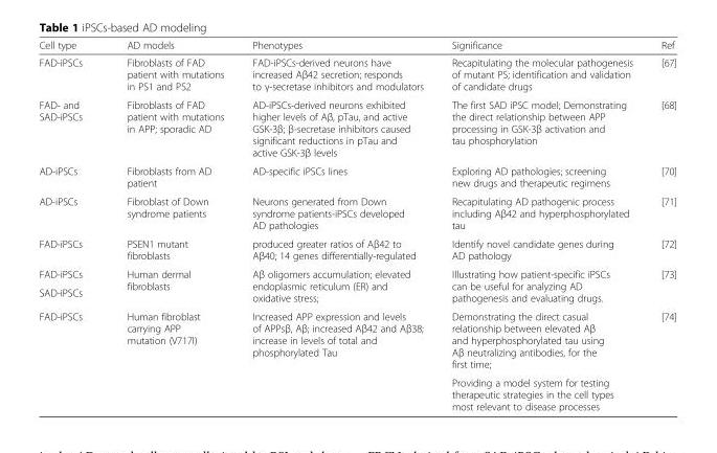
<table><thead><tr><td>Cell type</td><td>AD models</td><td>Phenotypes</td><td>Significance</td><td>Ref</td></tr></thead><tbody><tr><td>FAD-iPSCs</td><td>Fibroblasts of FAD patient with mutations in PS1 and PS2</td><td>FAD-iPSCs-derived neurons have increased Aβ42 secretion; responds to γ-secretase inhibitors and modulators</td><td>Recapitulating the molecular pathogenesis of mutant PS; identification and validation of candidate drugs</td><td>[67]</td></tr><tr><td>FAD- and SAD-iPSCs</td><td>Fibroblasts of FAD patient with mutations in APP; sporadic AD</td><td>AD-iPSCs-derived neurons exhibited higher levels of Aβ, pTau, and active GSK-3β; β-secretase inhibitors caused significant reductions in pTau and active GSK-3β levels</td><td>The first SAD iPSC model; Demonstrating the direct relationship between APP processing in GSK-3β activation and tau phosphorylation</td><td>[68]</td></tr><tr><td>AD-iPSCs</td><td>Fibroblasts from AD patient</td><td>AD-specific iPSCs lines</td><td>Exploring AD pathologies; screening new drugs and therapeutic regimens</td><td>[70]</td></tr><tr><td>AD-iPSCs</td><td>Fibroblast of Down syndrome patients</td><td>Neurons generated from Down syndrome patients-iPSCs developed AD pathologies</td><td>Recapitulating AD pathogenic process including Aβ42 and hyperphosphorylated tau</td><td>[71]</td></tr><tr><td>FAD-iPSCs</td><td>PSEN1 mutant fibroblasts</td><td>produced greater ratios of Aβ42 to Aβ40; 14 genes differentially-regulated</td><td>Identify novel candidate genes during AD pathology</td><td>[72]</td></tr><tr><td>FAD-iPSCs</td><td rowspan="2">Human dermal fibroblasts</td><td rowspan="2">Aβ oligomers accumulation; elevated endoplasmic reticulum (ER) and oxidative stress;</td><td rowspan="2">Illustrating how patient-specific iPSCs can be useful for analyzing AD pathogenesis and evaluating drugs.</td><td rowspan="2">[73]</td></tr><tr><td>SAD-iPSCs</td></tr><tr><td rowspan="2">FAD-iPSCs</td><td rowspan="2">Human fibroblast carrying APP mutation (V717I)</td><td rowspan="2">Increased APP expression and levels of APPsβ, Aβ; increased Aβ42 and Aβ38; increase in levels of total and phosphorylated Tau</td><td>Demonstrating the direct casual relationship between elevated Aβ and hyperphosphorylated tau using Aβ neutralizing antibodies, for the first time;</td><td rowspan="2">[74]</td></tr><tr><td>Providing a model system for testing therapeutic strategies in the cell types most relevant to disease processes</td></tr></tbody></table>